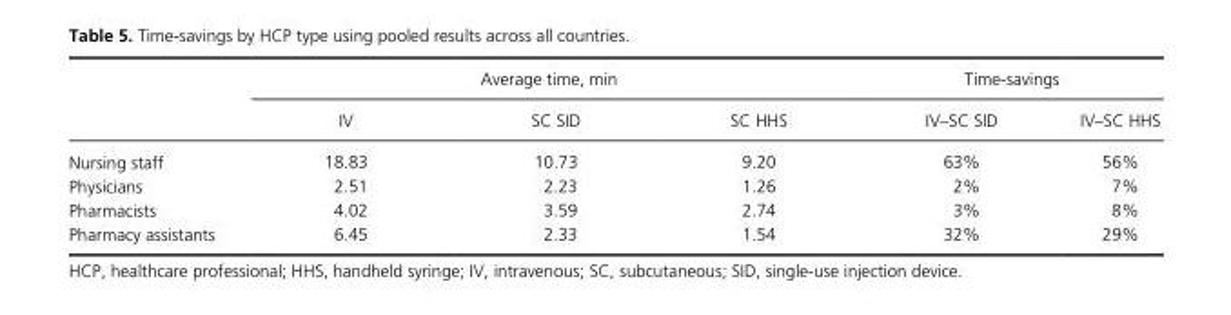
<table><thead><tr><td rowspan="2"></td><td colspan="3">Average time, min</td><td colspan="2">Time- savings</td></tr><tr><td>IV</td><td>SC SID</td><td>SC HHS</td><td>IV–SC SID</td><td>IV–SC HHS</td></tr></thead><tbody><tr><td>Nursing staff</td><td>18.83</td><td>10.73</td><td>9.20</td><td>63%</td><td>56%</td></tr><tr><td>Physicians</td><td>2.51</td><td>2.23</td><td>1.26</td><td>2%</td><td>7%</td></tr><tr><td>Pharmacists</td><td>4.02</td><td>3.59</td><td>2.74</td><td>3%</td><td>8%</td></tr><tr><td>Pharmacy assistants</td><td>6.45</td><td>2.33</td><td>1.54</td><td>32%</td><td>29%</td></tr></tbody></table>